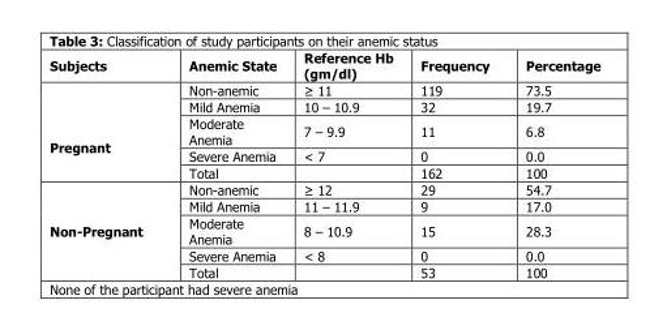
<table><thead><tr><td>Subjects</td><td>Anemic State</td><td>Reference Hb (gm/dl)</td><td>Frequency</td><td>Percentage</td></tr></thead><tbody><tr><td rowspan="5">Pregnant</td><td>Non-anemic</td><td>≥ 11</td><td>119</td><td>73.5</td></tr><tr><td>Mild Anemia</td><td>10 – 10.9</td><td>32</td><td>19.7</td></tr><tr><td>Moderate Anemia</td><td>7 – 9.9</td><td>11</td><td>6.8</td></tr><tr><td>Severe Anemia</td><td>&lt; 7</td><td>0</td><td>0.0</td></tr><tr><td>Total</td><td></td><td>162</td><td>100</td></tr><tr><td rowspan="5">Non-Pregnant</td><td>Non-anemic</td><td>≥ 12</td><td>29</td><td>54.7</td></tr><tr><td>Mild Anemia</td><td>11 – 11.9</td><td>9</td><td>17.0</td></tr><tr><td>Moderate Anemia</td><td>8 – 10.9</td><td>15</td><td>28.3</td></tr><tr><td>Severe Anemia</td><td>&lt; 8</td><td>0</td><td>0.0</td></tr><tr><td>Total</td><td></td><td>53</td><td>100</td></tr></tbody></table>